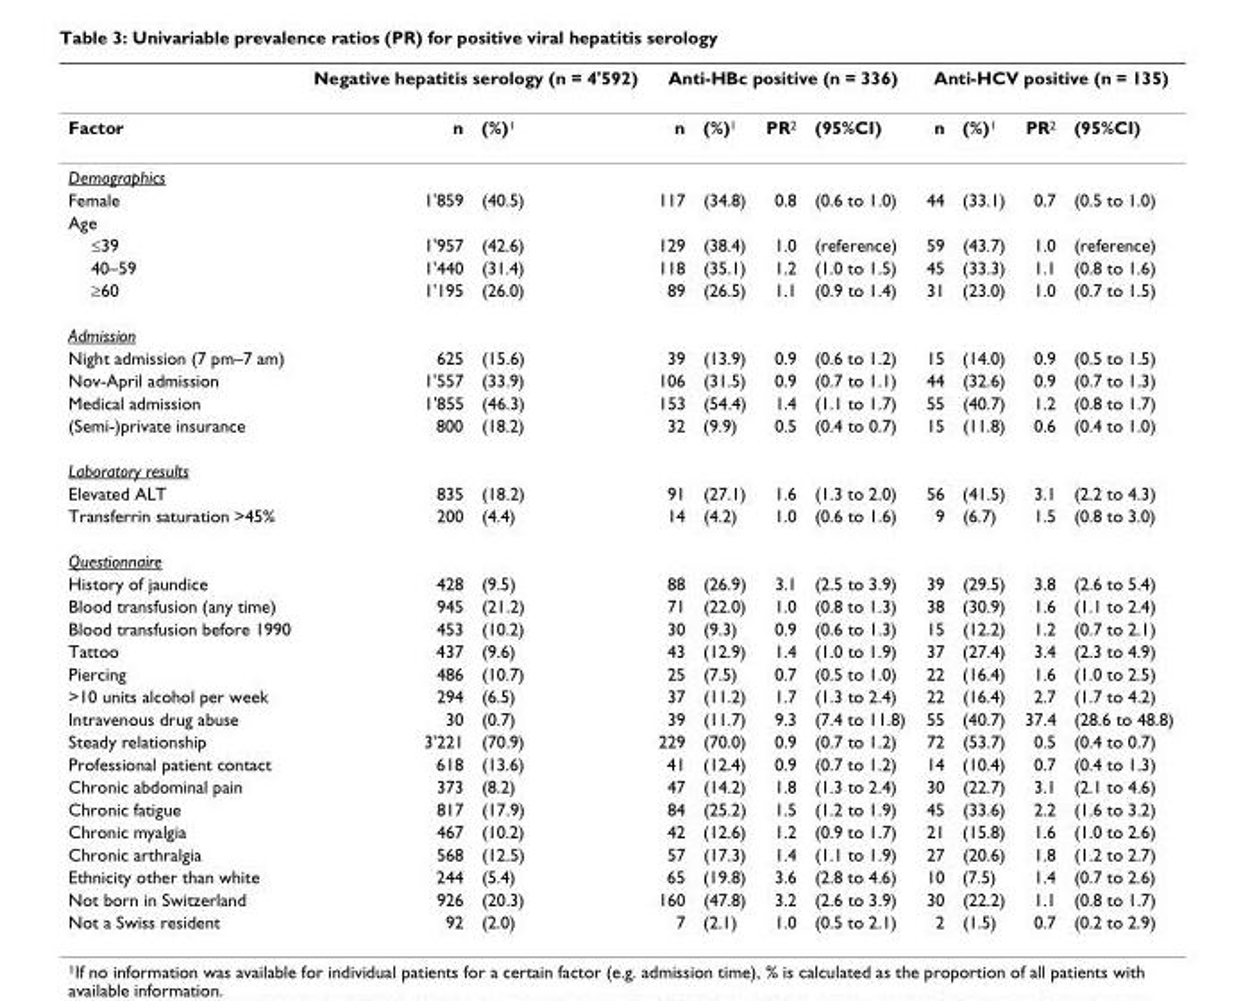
<table><thead><tr><td rowspan="2">Factor</td><td colspan="2">Negative hepatitis serology (n = 4&#x27;592)</td><td colspan="4">Anti-HBc positive (n = 336)</td><td colspan="4">Anti-HCV positive (n = 135)</td></tr><tr><td>n</td><td>(%)1</td><td>n</td><td>(%)1</td><td>PR2</td><td>(95%CI)</td><td>n</td><td>(%)1</td><td>PR2</td><td>(95%CI)</td></tr></thead><tbody><tr><td colspan="11">Demographics</td></tr><tr><td>Female</td><td>1&#x27;859</td><td>(40.5)</td><td>117</td><td>(34.8)</td><td>0.8</td><td>(0.6 to 1.0)</td><td>44</td><td>(33.1)</td><td>0.7</td><td>(0.5 to 1.0)</td></tr><tr><td colspan="11">Age</td></tr><tr><td>≤39</td><td>1&#x27;957</td><td>(42.6)</td><td>129</td><td>(38.4)</td><td>1.0</td><td>(reference)</td><td>59</td><td>(43.7)</td><td>1.0</td><td>(reference)</td></tr><tr><td>40–59</td><td>1&#x27;440</td><td>(31.4)</td><td>118</td><td>(35.1)</td><td>1.2</td><td>(1.0 to 1.5)</td><td>45</td><td>(33.3)</td><td>1.1</td><td>(0.8 to 1.6)</td></tr><tr><td>≥60</td><td>1&#x27;195</td><td>(26.0)</td><td>89</td><td>(26.5)</td><td>1.1</td><td>(0.9 to 1.4)</td><td>31</td><td>(23.0)</td><td>1.0</td><td>(0.7 to 1.5)</td></tr><tr><td colspan="11">Admission</td></tr><tr><td>Night admission (7 pm–7 am)</td><td>625</td><td>(15.6)</td><td>39</td><td>(13.9)</td><td>0.9</td><td>(0.6 to 1.2)</td><td>15</td><td>(14.0)</td><td>0.9</td><td>(0.5 to 1.5)</td></tr><tr><td>Nov-April admission</td><td>1&#x27;557</td><td>(33.9)</td><td>106</td><td>(31.5)</td><td>0.9</td><td>(0.7 to 1.1)</td><td>44</td><td>(32.6)</td><td>0.9</td><td>(0.7 to 1.3)</td></tr><tr><td>Medical admission</td><td>1&#x27;855</td><td>(46.3)</td><td>153</td><td>(54.4)</td><td>1.4</td><td>(1.1 to 1.7)</td><td>55</td><td>(40.7)</td><td>1.2</td><td>(0.8 to 1.7)</td></tr><tr><td>(Semi-)private insurance</td><td>800</td><td>(18.2)</td><td>32</td><td>(9.9)</td><td>0.5</td><td>(0.4 to 0.7)</td><td>15</td><td>(11.8)</td><td>0.6</td><td>(0.4 to 1.0)</td></tr><tr><td colspan="11">Laboratory results</td></tr><tr><td>Elevated ALT</td><td>835</td><td>(18.2)</td><td>91</td><td>(27.1)</td><td>1.6</td><td>(1.3 to 2.0)</td><td>56</td><td>(41.5)</td><td>3.1</td><td>(2.2 to 4.3)</td></tr><tr><td>Transferrin saturation &gt;45%</td><td>200</td><td>(4.4)</td><td>14</td><td>(4.2)</td><td>1.0</td><td>(0.6 to 1.6)</td><td>9</td><td>(6.7)</td><td>1.5</td><td>(0.8 to 3.0)</td></tr><tr><td colspan="11">Questionnaire</td></tr><tr><td>History of jaundice</td><td>428</td><td>(9.5)</td><td>88</td><td>(26.9)</td><td>3.1</td><td>(2.5 to 3.9)</td><td>39</td><td>(29.5)</td><td>3.8</td><td>(2.6 to 5.4)</td></tr><tr><td>Blood transfusion (any time)</td><td>945</td><td>(21.2)</td><td>71</td><td>(22.0)</td><td>1.0</td><td>(0.8 to 1.3)</td><td>38</td><td>(30.9)</td><td>1.6</td><td>(1.1 to 2.4)</td></tr><tr><td>Blood transfusion before 1990</td><td>453</td><td>(10.2)</td><td>30</td><td>(9.3)</td><td>0.9</td><td>(0.6 to 1.3)</td><td>15</td><td>(12.2)</td><td>1.2</td><td>(0.7 to 2.1)</td></tr><tr><td>Tattoo</td><td>437</td><td>(9.6)</td><td>43</td><td>(12.9)</td><td>1.4</td><td>(1.0 to 1.9)</td><td>37</td><td>(27.4)</td><td>3.4</td><td>(2.3 to 4.9)</td></tr><tr><td>Piercing</td><td>486</td><td>(10.7)</td><td>25</td><td>(7.5)</td><td>0.7</td><td>(0.5 to 1.0)</td><td>22</td><td>(16.4)</td><td>1.6</td><td>(1.0 to 2.5)</td></tr><tr><td>&gt;10 units alcohol per week</td><td>294</td><td>(6.5)</td><td>37</td><td>(11.2)</td><td>1.7</td><td>(1.3 to 2.4)</td><td>22</td><td>(16.4)</td><td>2.7</td><td>(1.7 to 4.2)</td></tr><tr><td>Intravenous drug abuse</td><td>30</td><td>(0.7)</td><td>39</td><td>(11.7)</td><td>9.3</td><td>(7.4 to 11.8)</td><td>55</td><td>(40.7)</td><td>37.4</td><td>(28.6 to 48.8)</td></tr><tr><td>Steady relationship</td><td>3&#x27;221</td><td>(70.9)</td><td>229</td><td>(70.0)</td><td>0.9</td><td>(0.7 to 1.2)</td><td>72</td><td>(53.7)</td><td>0.5</td><td>(0.4 to 0.7)</td></tr><tr><td>Professional patient contact</td><td>618</td><td>(13.6)</td><td>41</td><td>(12.4)</td><td>0.9</td><td>(0.7 to 1.2)</td><td>14</td><td>(10.4)</td><td>0.7</td><td>(0.4 to 1.3)</td></tr><tr><td>Chronic abdominal pain</td><td>373</td><td>(8.2)</td><td>47</td><td>(14.2)</td><td>1.8</td><td>(1.3 to 2.4)</td><td>30</td><td>(22.7)</td><td>3.1</td><td>(2.1 to 4.6)</td></tr><tr><td>Chronic fatigue</td><td>817</td><td>(17.9)</td><td>84</td><td>(25.2)</td><td>1.5</td><td>(1.2 to 1.9)</td><td>45</td><td>(33.6)</td><td>2.2</td><td>(1.6 to 3.2)</td></tr><tr><td>Chronic myalgia</td><td>467</td><td>(10.2)</td><td>42</td><td>(12.6)</td><td>1.2</td><td>(0.9 to 1.7)</td><td>21</td><td>(15.8)</td><td>1.6</td><td>(1.0 to 2.6)</td></tr><tr><td>Chronic arthralgia</td><td>568</td><td>(12.5)</td><td>57</td><td>(17.3)</td><td>1.4</td><td>(1.1 to 1.9)</td><td>27</td><td>(20.6)</td><td>1.8</td><td>(1.2 to 2.7)</td></tr><tr><td>Ethnicity other than white</td><td>244</td><td>(5.4)</td><td>65</td><td>(19.8)</td><td>3.6</td><td>(2.8 to 4.6)</td><td>10</td><td>(7.5)</td><td>1.4</td><td>(0.7 to 2.6)</td></tr><tr><td>Not born in Switzerland</td><td>926</td><td>(20.3)</td><td>160</td><td>(47.8)</td><td>3.2</td><td>(2.6 to 3.9)</td><td>30</td><td>(22.2)</td><td>1.1</td><td>(0.8 to 1.7)</td></tr><tr><td>Not a Swiss resident</td><td>92</td><td>(2.0)</td><td>7</td><td>(2.1)</td><td>1.0</td><td>(0.5 to 2.1)</td><td>2</td><td>(1.5)</td><td>0.7</td><td>(0.2 to 2.9)</td></tr></tbody></table>